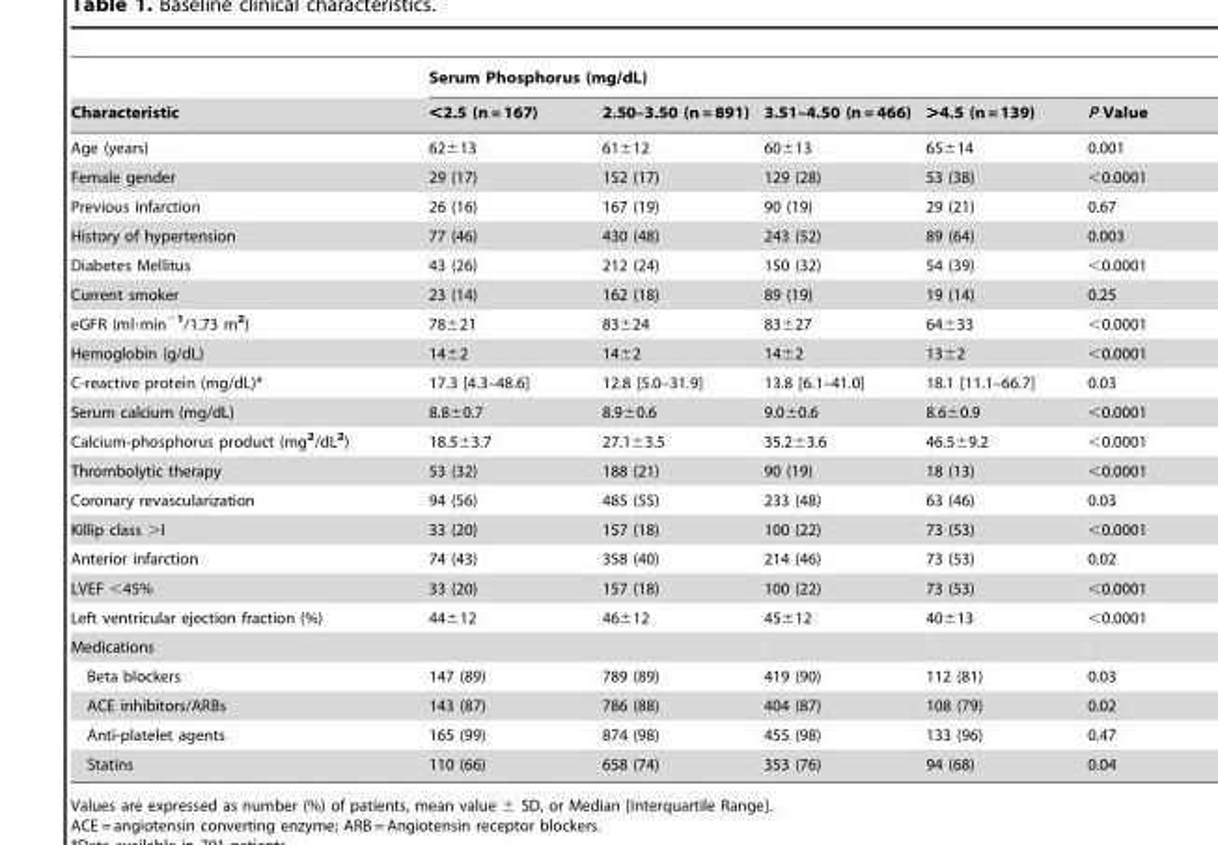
<table><thead><tr><td rowspan="2">Characteristic</td><td colspan="5">Serum Phosphorus (mg/dL)</td></tr><tr><td>&lt;2.5 (n = 167)</td><td>2.50–3.50 (n = 891)</td><td>3.51–4.50 (n = 466)</td><td>&gt;4.5 (n = 139)</td><td>P Value</td></tr></thead><tbody><tr><td>Age (years)</td><td>62±13</td><td>61±12</td><td>60±13</td><td>65±14</td><td>0.001</td></tr><tr><td>Female gender</td><td>29 (17)</td><td>152 (17)</td><td>129 (28)</td><td>53 (38)</td><td>&lt;0.0001</td></tr><tr><td>Previous infarction</td><td>26 (16)</td><td>167 (19)</td><td>90 (19)</td><td>29 (21)</td><td>0.67</td></tr><tr><td>History of hypertension</td><td>77 (46)</td><td>430 (48)</td><td>243 (52)</td><td>89 (64)</td><td>0.003</td></tr><tr><td>Diabetes Mellitus</td><td>43 (26)</td><td>212 (24)</td><td>150 (32)</td><td>54 (39)</td><td>&lt;0.0001</td></tr><tr><td>Current smoker</td><td>23 (14)</td><td>162 (18)</td><td>89 (19)</td><td>19 (14)</td><td>0.25</td></tr><tr><td>eGFR (ml·min<sup>−1</sup>/1.73 m<sup>2</sup>)</td><td>78±21</td><td>83±24</td><td>83±27</td><td>64±33</td><td>&lt;0.0001</td></tr><tr><td>Hemoglobin (g/dL)</td><td>14±2</td><td>14±2</td><td>14±2</td><td>13±2</td><td>&lt;0.0001</td></tr><tr><td>C-reactive protein (mg/dL)*</td><td>17.3 [4.3–48.6]</td><td>12.8 [5.0–31.9]</td><td>13.8 [6.1–41.0]</td><td>18.1 [11.1–66.7]</td><td>0.03</td></tr><tr><td>Serum calcium (mg/dL)</td><td>8.8±0.7</td><td>8.9±0.6</td><td>9.0±0.6</td><td>8.6±0.9</td><td>&lt;0.0001</td></tr><tr><td>Calcium-phosphorus product (mg<sup>2</sup>/dL<sup>2</sup>)</td><td>18.5±3.7</td><td>27.1±3.5</td><td>35.2±3.6</td><td>46.5±9.2</td><td>&lt;0.0001</td></tr><tr><td>Thrombolytic therapy</td><td>53 (32)</td><td>188 (21)</td><td>90 (19)</td><td>18 (13)</td><td>&lt;0.0001</td></tr><tr><td>Coronary revascularization</td><td>94 (56)</td><td>485 (55)</td><td>233 (48)</td><td>63 (46)</td><td>0.03</td></tr><tr><td>Killip class &gt;I</td><td>33 (20)</td><td>157 (18)</td><td>100 (22)</td><td>73 (53)</td><td>&lt;0.0001</td></tr><tr><td>Anterior infarction</td><td>74 (43)</td><td>358 (40)</td><td>214 (46)</td><td>73 (53)</td><td>0.02</td></tr><tr><td>LVEF &lt;45%</td><td>33 (20)</td><td>157 (18)</td><td>100 (22)</td><td>73 (53)</td><td>&lt;0.0001</td></tr><tr><td>Left ventricular ejection fraction (%)</td><td>44±12</td><td>46±12</td><td>45±12</td><td>40±13</td><td>&lt;0.0001</td></tr><tr><td colspan="6">Medications</td></tr><tr><td>Beta blockers</td><td>147 (89)</td><td>789 (89)</td><td>419 (90)</td><td>112 (81)</td><td>0.03</td></tr><tr><td>ACE inhibitors/ARBs</td><td>143 (87)</td><td>786 (88)</td><td>404 (87)</td><td>108 (79)</td><td>0.02</td></tr><tr><td>Anti-platelet agents</td><td>165 (99)</td><td>874 (98)</td><td>455 (98)</td><td>133 (96)</td><td>0.47</td></tr><tr><td>Statins</td><td>110 (66)</td><td>658 (74)</td><td>353 (76)</td><td>94 (68)</td><td>0.04</td></tr></tbody></table>